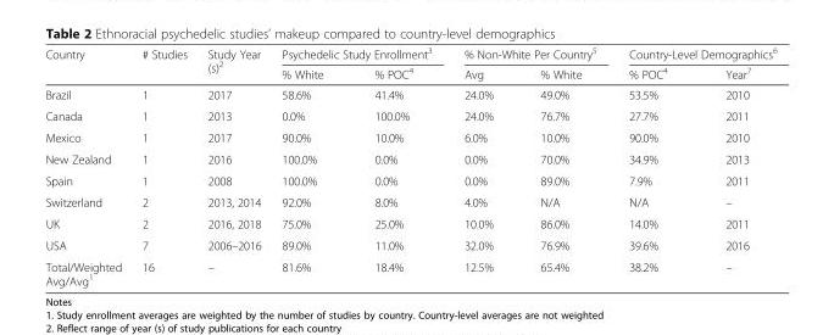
<table><thead><tr><td rowspan="2">Country</td><td rowspan="2"># Studies</td><td rowspan="2">Study Year (s)<sup>2</sup></td><td colspan="2">Psychedelic Study Enrollment<sup>3</sup></td><td colspan="2">% Non-White Per Country<sup>5</sup></td><td colspan="2">Country-Level Demographics<sup>6</sup></td></tr><tr><td>% White</td><td>% POC<sup>4</sup></td><td>Avg</td><td>% White</td><td>% POC<sup>4</sup></td><td>Year<sup>7</sup></td></tr></thead><tbody><tr><td>Brazil</td><td>1</td><td>2017</td><td>58.6%</td><td>41.4%</td><td>24.0%</td><td>49.0%</td><td>53.5%</td><td>2010</td></tr><tr><td>Canada</td><td>1</td><td>2013</td><td>0.0%</td><td>100.0%</td><td>24.0%</td><td>76.7%</td><td>27.7%</td><td>2011</td></tr><tr><td>Mexico</td><td>1</td><td>2017</td><td>90.0%</td><td>10.0%</td><td>6.0%</td><td>10.0%</td><td>90.0%</td><td>2010</td></tr><tr><td>New Zealand</td><td>1</td><td>2016</td><td>100.0%</td><td>0.0%</td><td>0.0%</td><td>70.0%</td><td>34.9%</td><td>2013</td></tr><tr><td>Spain</td><td>1</td><td>2008</td><td>100.0%</td><td>0.0%</td><td>0.0%</td><td>89.0%</td><td>7.9%</td><td>2011</td></tr><tr><td>Switzerland</td><td>2</td><td>2013, 2014</td><td>92.0%</td><td>8.0%</td><td>4.0%</td><td>N/A</td><td>N/A</td><td>–</td></tr><tr><td>UK</td><td>2</td><td>2016, 2018</td><td>75.0%</td><td>25.0%</td><td>10.0%</td><td>86.0%</td><td>14.0%</td><td>2011</td></tr><tr><td>USA</td><td>7</td><td>2006–2016</td><td>89.0%</td><td>11.0%</td><td>32.0%</td><td>76.9%</td><td>39.6%</td><td>2016</td></tr><tr><td>Total/Weighted Avg/Avg<sup>1</sup></td><td>16</td><td>–</td><td>81.6%</td><td>18.4%</td><td>12.5%</td><td>65.4%</td><td>38.2%</td><td>–</td></tr></tbody></table>